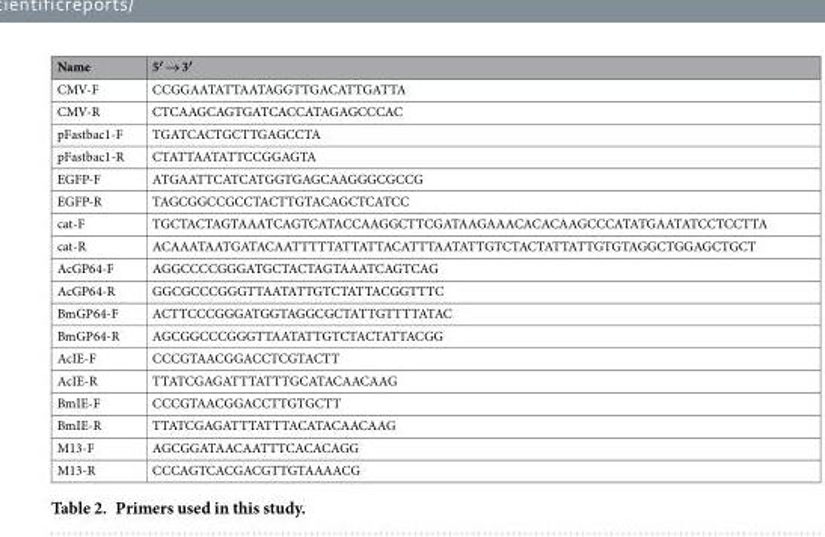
<table><thead><tr><td>Name</td><td>5′ → 3′</td></tr></thead><tbody><tr><td>CMV-F</td><td>CCGGAATATTAATAGGTTGACATTGATTA</td></tr><tr><td>CMV-R</td><td>CTCAAGCAGTGATCACCATAGAGCCCAC</td></tr><tr><td>pFastbac1-F</td><td>TGATCACTGCTTGAGCCTA</td></tr><tr><td>pFastbac1-R</td><td>CTATTAATATTCCGGAGTA</td></tr><tr><td>EGFP-F</td><td>ATGAATTCATCATGGTGAGCAAGGGCGCCG</td></tr><tr><td>EGFP-R</td><td>TAGCGGCCGCCTACTTGTACAGCTCATCC</td></tr><tr><td>cat-F</td><td>TGCTACTAGTAAATCAGTCATACCAAGGCTTCGATAAGAAACACACAAGCCCATATGAATATCCTCCTTA</td></tr><tr><td>cat-R</td><td>ACAAATAATGATACAATTTTTATTATTACATTTAATATTGTCTACTATTATTGTGTAGGCTGGAGCTGCT</td></tr><tr><td>AcGP64-F</td><td>AGGCCCCGGGATGCTACTAGTAAATCAGTCAG</td></tr><tr><td>AcGP64-R</td><td>GGCGCCCGGGTTAATATTGTCTATTACGGTTTC</td></tr><tr><td>BmGP64-F</td><td>ACTTCCCGGGATGGTAGGCGCTATTGTTTTATAC</td></tr><tr><td>BmGP64-R</td><td>AGCGGCCCGGGTTAATATTGTCTACTATTACGG</td></tr><tr><td>AcIE-F</td><td>CCCGTAACGGACCTCGTACTT</td></tr><tr><td>AcIE-R</td><td>TTATCGAGATTTATTTGCATACAACAAG</td></tr><tr><td>BmIE-F</td><td>CCCGTAACGGACCTTGTGCTT</td></tr><tr><td>BmIE-R</td><td>TTATCGAGATTTATTTACATACAACAAG</td></tr><tr><td>M13-F</td><td>AGCGGATAACAATTTCACACAGG</td></tr><tr><td>M13-R</td><td>CCCAGTCACGACGTTGTAAAACG</td></tr></tbody></table>